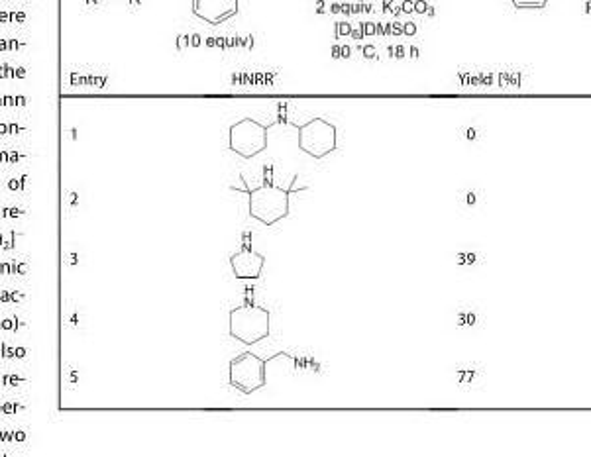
<table><thead><tr><td>Entry</td><td>HNRR’</td><td>Yield [%]</td></tr></thead><tbody><tr><td>1</td><td></td><td>0</td></tr><tr><td>2</td><td></td><td>0</td></tr><tr><td>3</td><td></td><td>39</td></tr><tr><td>4</td><td></td><td>30</td></tr><tr><td>5</td><td></td><td>77</td></tr></tbody></table>